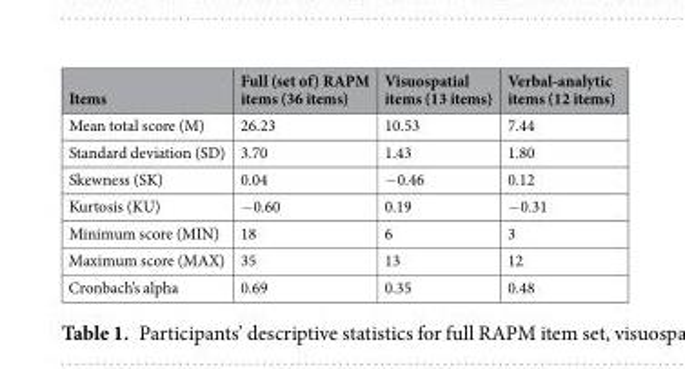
<table><thead><tr><td>Items</td><td>Full (set of) RAPM items (36 items)</td><td>Visuospatial items (13 items)</td><td>Verbal-analytic items (12 items)</td></tr></thead><tbody><tr><td>Mean total score (M)</td><td>26.23</td><td>10.53</td><td>7.44</td></tr><tr><td>Standard deviation (SD)</td><td>3.70</td><td>1.43</td><td>1.80</td></tr><tr><td>Skewness (SK)</td><td>0.04</td><td>−0.46</td><td>0.12</td></tr><tr><td>Kurtosis (KU)</td><td>−0.60</td><td>0.19</td><td>−0.31</td></tr><tr><td>Minimum score (MIN)</td><td>18</td><td>6</td><td>3</td></tr><tr><td>Maximum score (MAX)</td><td>35</td><td>13</td><td>12</td></tr><tr><td>Cronbach’s alpha</td><td>0.69</td><td>0.35</td><td>0.48</td></tr></tbody></table>